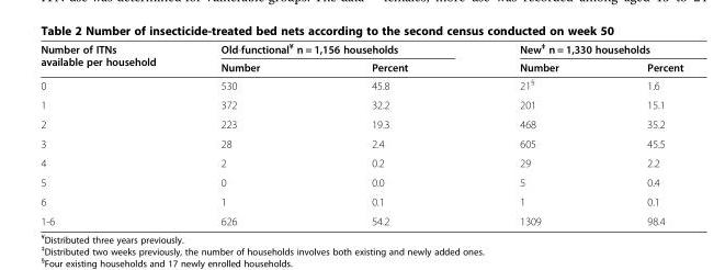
<table><thead><tr><td rowspan="2">Number of ITNs available per household</td><td colspan="2">Old-functional<sup>¥</sup> n = 1,156 households</td><td colspan="2">New<sup>‡</sup> n = 1,330 households</td></tr><tr><td>Number</td><td>Percent</td><td>Number</td><td>Percent</td></tr></thead><tbody><tr><td>0</td><td>530</td><td>45.8</td><td>21<sup>§</sup></td><td>1.6</td></tr><tr><td>1</td><td>372</td><td>32.2</td><td>201</td><td>15.1</td></tr><tr><td>2</td><td>223</td><td>19.3</td><td>468</td><td>35.2</td></tr><tr><td>3</td><td>28</td><td>2.4</td><td>605</td><td>45.5</td></tr><tr><td>4</td><td>2</td><td>0.2</td><td>29</td><td>2.2</td></tr><tr><td>5</td><td>0</td><td>0.0</td><td>5</td><td>0.4</td></tr><tr><td>6</td><td>1</td><td>0.1</td><td>1</td><td>0.1</td></tr><tr><td>1-6</td><td>626</td><td>54.2</td><td>1309</td><td>98.4</td></tr></tbody></table>